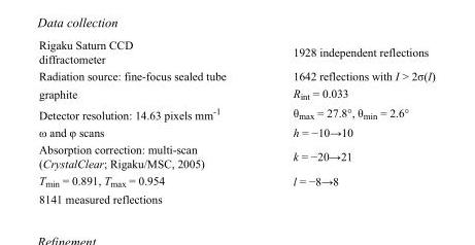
<table><tbody><tr><td>Rigaku Saturn CCD diffractometer</td><td>1928 independent reflections</td></tr><tr><td>Radiation source: fine-focus sealed tube</td><td>1642 reflections with I &gt; 2σ(I)</td></tr><tr><td>graphite</td><td>R<sub>int</sub> = 0.033</td></tr><tr><td>Detector resolution: 14.63 pixels mm<sup>-1</sup></td><td>θ<sub>max</sub> = 27.8°, θ<sub>min</sub> = 2.6°</td></tr><tr><td>ω and φ scans</td><td>h = −10→10</td></tr><tr><td>Absorption correction: multi-scan (CrystalClear; Rigaku/MSC, 2005)</td><td>k = −20→21</td></tr><tr><td>T<sub>min</sub> = 0.891, T<sub>max</sub> = 0.954</td><td>l = −8→8</td></tr><tr><td>8141 measured reflections</td><td></td></tr></tbody></table>